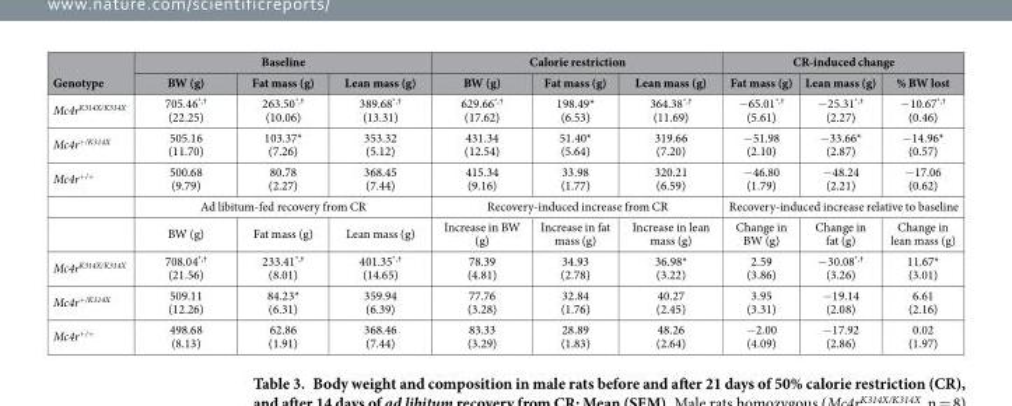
<table><thead><tr><td rowspan="2">Genotype</td><td colspan="3">Baseline</td><td colspan="3">Calorie restriction</td><td colspan="3">CR-induced change</td></tr><tr><td>BW (g)</td><td>Fat mass (g)</td><td>Lean mass (g)</td><td>BW (g)</td><td>Fat mass (g)</td><td>Lean mass (g)</td><td>Fat mass (g)</td><td>Lean mass (g)</td><td>% BW lost</td></tr></thead><tbody><tr><td>Mc4r<sup>K314X/K314X</sup></td><td>705.46<sup>*,†</sup> (22.25)</td><td>263.50<sup>*,†</sup> (10.06)</td><td>389.68<sup>*,†</sup> (13.31)</td><td>629.66<sup>*,†</sup> (17.62)</td><td>198.49* (6.53)</td><td>364.38<sup>*,†</sup> (11.69)</td><td>− 65.01<sup>*,†</sup> (5.61)</td><td>− 25.31<sup>*,†</sup> (2.27)</td><td>− 10.67<sup>*,†</sup> (0.46)</td></tr><tr><td>Mc4r<sup>+/K314X</sup></td><td>505.16 (11.70)</td><td>103.37* (7.26)</td><td>353.32 (5.12)</td><td>431.34 (12.54)</td><td>51.40* (5.64)</td><td>319.66 (7.20)</td><td>− 51.98 (2.10)</td><td>− 33.66* (2.87)</td><td>− 14.96* (0.57)</td></tr><tr><td rowspan="3">Mc4r<sup>+/+</sup></td><td>500.68 (9.79)</td><td>80.78 (2.27)</td><td>368.45 (7.44)</td><td>415.34 (9.16)</td><td>33.98 (1.77)</td><td>320.21 (6.59)</td><td>− 46.80 (1.79)</td><td>− 48.24 (2.21)</td><td>− 17.06 (0.62)</td></tr><tr><td colspan="3">Ad libitum-fed recovery from CR</td><td colspan="3">Recovery-induced increase from CR</td><td colspan="3">Recovery-induced increase relative to baseline</td></tr><tr><td>BW (g)</td><td>Fat mass (g)</td><td>Lean mass (g)</td><td>Increase in BW (g)</td><td>Increase in fat mass (g)</td><td>Increase in lean mass (g)</td><td>Change in BW (g)</td><td>Change in fat (g)</td><td>Change in lean mass (g)</td></tr><tr><td>Mc4r<sup>K314X/K314X</sup></td><td>708.04<sup>*,†</sup> (21.56)</td><td>233.41<sup>*,†</sup> (8.01)</td><td>401.35<sup>*,†</sup> (14.65)</td><td>78.39 (4.81)</td><td>34.93 (2.78)</td><td>36.98* (3.22)</td><td>2.59 (3.86)</td><td>− 30.08<sup>*,†</sup> (3.26)</td><td>11.67* (3.01)</td></tr><tr><td>Mc4r<sup>+/K314X</sup></td><td>509.11 (12.26)</td><td>84.23* (6.31)</td><td>359.94 (6.39)</td><td>77.76 (3.28)</td><td>32.84 (1.76)</td><td>40.27 (2.45)</td><td>3.95 (3.31)</td><td>− 19.14 (2.08)</td><td>6.61 (2.16)</td></tr><tr><td>Mc4r<sup>+/+</sup></td><td>498.68 (8.13)</td><td>62.86 (1.91)</td><td>368.46 (7.44)</td><td>83.33 (3.29)</td><td>28.89 (1.83)</td><td>48.26 (2.64)</td><td>− 2.00 (4.09)</td><td>− 17.92 (2.86)</td><td>0.02 (1.97)</td></tr></tbody></table>